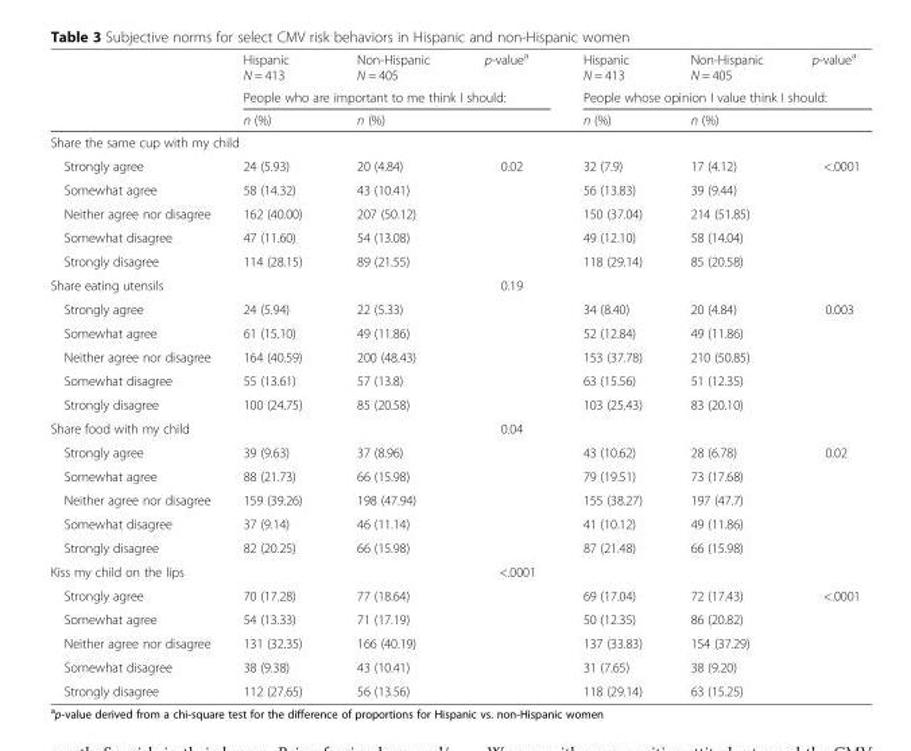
<table><thead><tr><td rowspan="3"></td><td>Hispanic N = 413</td><td>Non-Hispanic N = 405</td><td>p-value<sup>a</sup></td><td>Hispanic N = 413</td><td>Non-Hispanic N = 405</td><td>p-value<sup>a</sup></td></tr><tr><td colspan="3">People who are important to me think I should:</td><td colspan="3">People whose opinion I value think I should:</td></tr><tr><td>n (%)</td><td>n (%)</td><td></td><td>n (%)</td><td>n (%)</td><td></td></tr></thead><tbody><tr><td colspan="7">Share the same cup with my child</td></tr><tr><td>Strongly agree</td><td>24 (5.93)</td><td>20 (4.84)</td><td>0.02</td><td>32 (7.9)</td><td>17 (4.12)</td><td>&lt;.0001</td></tr><tr><td>Somewhat agree</td><td>58 (14.32)</td><td>43 (10.41)</td><td></td><td>56 (13.83)</td><td>39 (9.44)</td><td></td></tr><tr><td>Neither agree nor disagree</td><td>162 (40.00)</td><td>207 (50.12)</td><td></td><td>150 (37.04)</td><td>214 (51.85)</td><td></td></tr><tr><td>Somewhat disagree</td><td>47 (11.60)</td><td>54 (13.08)</td><td></td><td>49 (12.10)</td><td>58 (14.04)</td><td></td></tr><tr><td>Strongly disagree</td><td>114 (28.15)</td><td>89 (21.55)</td><td></td><td>118 (29.14)</td><td>85 (20.58)</td><td></td></tr><tr><td colspan="3">Share eating utensils</td><td>0.19</td><td></td><td></td><td></td></tr><tr><td>Strongly agree</td><td>24 (5.94)</td><td>22 (5.33)</td><td></td><td>34 (8.40)</td><td>20 (4.84)</td><td>0.003</td></tr><tr><td>Somewhat agree</td><td>61 (15.10)</td><td>49 (11.86)</td><td></td><td>52 (12.84)</td><td>49 (11.86)</td><td></td></tr><tr><td>Neither agree nor disagree</td><td>164 (40.59)</td><td>200 (48.43)</td><td></td><td>153 (37.78)</td><td>210 (50.85)</td><td></td></tr><tr><td>Somewhat disagree</td><td>55 (13.61)</td><td>57 (13.8)</td><td></td><td>63 (15.56)</td><td>51 (12.35)</td><td></td></tr><tr><td>Strongly disagree</td><td>100 (24.75)</td><td>85 (20.58)</td><td></td><td>103 (25.43)</td><td>83 (20.10)</td><td></td></tr><tr><td colspan="3">Share food with my child</td><td>0.04</td><td></td><td></td><td></td></tr><tr><td>Strongly agree</td><td>39 (9.63)</td><td>37 (8.96)</td><td></td><td>43 (10.62)</td><td>28 (6.78)</td><td>0.02</td></tr><tr><td>Somewhat agree</td><td>88 (21.73)</td><td>66 (15.98)</td><td></td><td>79 (19.51)</td><td>73 (17.68)</td><td></td></tr><tr><td>Neither agree nor disagree</td><td>159 (39.26)</td><td>198 (47.94)</td><td></td><td>155 (38.27)</td><td>197 (47.7)</td><td></td></tr><tr><td>Somewhat disagree</td><td>37 (9.14)</td><td>46 (11.14)</td><td></td><td>41 (10.12)</td><td>49 (11.86)</td><td></td></tr><tr><td>Strongly disagree</td><td>82 (20.25)</td><td>66 (15.98)</td><td></td><td>87 (21.48)</td><td>66 (15.98)</td><td></td></tr><tr><td colspan="3">Kiss my child on the lips</td><td>&lt;.0001</td><td></td><td></td><td></td></tr><tr><td>Strongly agree</td><td>70 (17.28)</td><td>77 (18.64)</td><td></td><td>69 (17.04)</td><td>72 (17.43)</td><td>&lt;.0001</td></tr><tr><td>Somewhat agree</td><td>54 (13.33)</td><td>71 (17.19)</td><td></td><td>50 (12.35)</td><td>86 (20.82)</td><td></td></tr><tr><td>Neither agree nor disagree</td><td>131 (32.35)</td><td>166 (40.19)</td><td></td><td>137 (33.83)</td><td>154 (37.29)</td><td></td></tr><tr><td>Somewhat disagree</td><td>38 (9.38)</td><td>43 (10.41)</td><td></td><td>31 (7.65)</td><td>38 (9.20)</td><td></td></tr><tr><td>Strongly disagree</td><td>112 (27.65)</td><td>56 (13.56)</td><td></td><td>118 (29.14)</td><td>63 (15.25)</td><td></td></tr></tbody></table>